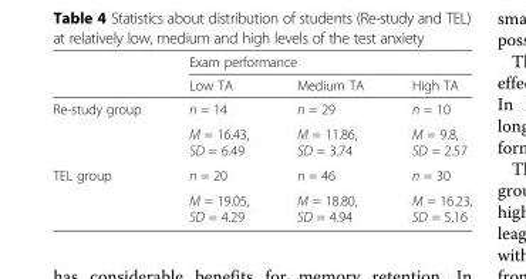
<table><thead><tr><td rowspan="2"></td><td colspan="3">Exam performance</td></tr><tr><td>Low TA</td><td>Medium TA</td><td>High TA</td></tr></thead><tbody><tr><td rowspan="2">Re-study group</td><td>n = 14</td><td>n = 29</td><td>n = 10</td></tr><tr><td>M = 16.43, SD = 6.49</td><td>M = 11.86, SD = 3.74</td><td>M = 9.8, SD = 2.57</td></tr><tr><td rowspan="2">TEL group</td><td>n = 20</td><td>n = 46</td><td>n = 30</td></tr><tr><td>M = 19.05, SD = 4.29</td><td>M = 18.80, SD = 4.94</td><td>M = 16.23, SD = 5.16</td></tr></tbody></table>